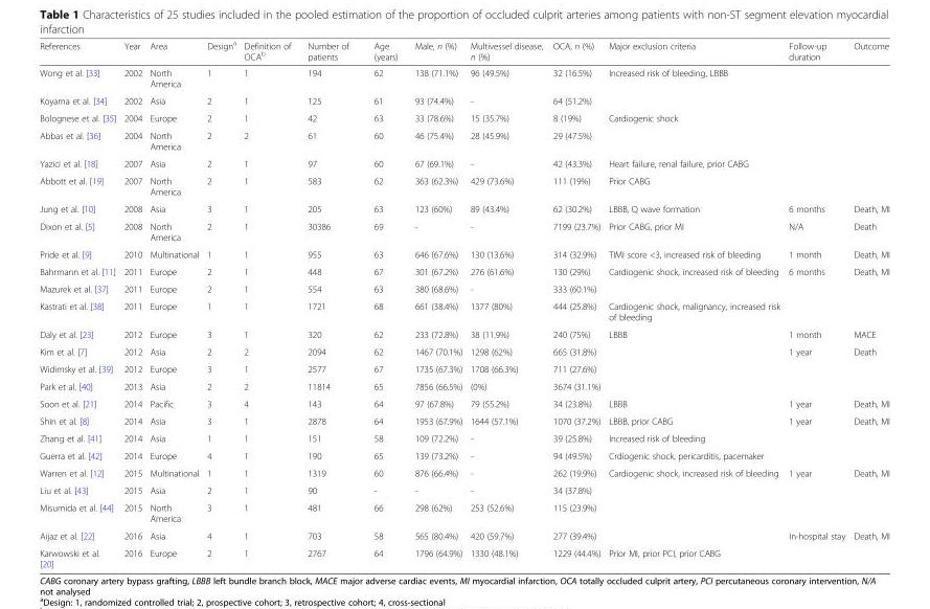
<table><thead><tr><td>References</td><td>Year</td><td>Area</td><td>Design<sup>a</sup></td><td>Definition of OCA<sup>b</sup></td><td>Number of patients</td><td>Age (years)</td><td>Male, n (%)</td><td>Multivessel disease, n (%)</td><td>OCA, n (%)</td><td>Major exclusion criteria</td><td>Follow-up duration</td><td>Outcome</td></tr></thead><tbody><tr><td>Wong et al. [33]</td><td>2002</td><td>North America</td><td>1</td><td>1</td><td>194</td><td>62</td><td>138 (71.1%)</td><td>96 (49.5%)</td><td>32 (16.5%)</td><td>Increased risk of bleeding, LBBB</td><td></td><td></td></tr><tr><td>Koyama et al. [34]</td><td>2002</td><td>Asia</td><td>2</td><td>1</td><td>125</td><td>61</td><td>93 (74.4%)</td><td>-</td><td>64 (51.2%)</td><td></td><td></td><td></td></tr><tr><td>Bolognese et al. [35]</td><td>2004</td><td>Europe</td><td>2</td><td>1</td><td>42</td><td>63</td><td>33 (78.6%)</td><td>15 (35.7%)</td><td>8 (19%)</td><td>Cardiogenic shock</td><td></td><td></td></tr><tr><td>Abbas et al. [36]</td><td>2004</td><td>North America</td><td>2</td><td>2</td><td>61</td><td>60</td><td>46 (75.4%)</td><td>28 (45.9%)</td><td>29 (47.5%)</td><td></td><td></td><td></td></tr><tr><td>Yazici et al. [18]</td><td>2007</td><td>Asia</td><td>2</td><td>1</td><td>97</td><td>60</td><td>67 (69.1%)</td><td>-</td><td>42 (43.3%)</td><td>Heart failure, renal failure, prior CABG</td><td></td><td></td></tr><tr><td>Abbott et al. [19]</td><td>2007</td><td>North America</td><td>2</td><td>1</td><td>583</td><td>62</td><td>363 (62.3%)</td><td>429 (73.6%)</td><td>111 (19%)</td><td>Prior CABG</td><td></td><td></td></tr><tr><td>Jung et al. [10]</td><td>2008</td><td>Asia</td><td>3</td><td>1</td><td>205</td><td>63</td><td>123 (60%)</td><td>89 (43.4%)</td><td>62 (30.2%)</td><td>LBBB, Q wave formation</td><td>6 months</td><td>Death, MI</td></tr><tr><td>Dixon et al. [5]</td><td>2008</td><td>North America</td><td>2</td><td>1</td><td>30386</td><td>69</td><td>-</td><td>-</td><td>7199 (23.7%)</td><td>Prior CABG, prior MI</td><td>N/A</td><td>Death</td></tr><tr><td>Pride et al. [9]</td><td>2010</td><td>Multinational</td><td>1</td><td>1</td><td>955</td><td>63</td><td>646 (67.6%)</td><td>130 (13.6%)</td><td>314 (32.9%)</td><td>TIMI score &lt;3, increased risk of bleeding</td><td>1 month</td><td>Death, MI</td></tr><tr><td>Bahrmann et al. [11]</td><td>2011</td><td>Europe</td><td>2</td><td>1</td><td>448</td><td>67</td><td>301 (67.2%)</td><td>276 (61.6%)</td><td>130 (29%)</td><td>Cardiogenic shock, increased risk of bleeding</td><td>6 months</td><td>Death, MI</td></tr><tr><td>Mazurek et al. [37]</td><td>2011</td><td>Europe</td><td>2</td><td>1</td><td>554</td><td>63</td><td>380 (68.6%)</td><td>-</td><td>333 (60.1%)</td><td></td><td></td><td></td></tr><tr><td>Kastrati et al. [38]</td><td>2011</td><td>Europe</td><td>1</td><td>1</td><td>1721</td><td>68</td><td>661 (38.4%)</td><td>1377 (80%)</td><td>444 (25.8%)</td><td>Cardiogenic shock, malignancy, increased risk of bleeding</td><td></td><td></td></tr><tr><td>Daly et al. [23]</td><td>2012</td><td>Europe</td><td>3</td><td>1</td><td>320</td><td>62</td><td>233 (72.8%)</td><td>38 (11.9%)</td><td>240 (75%)</td><td>LBBB</td><td>1 month</td><td>MACE</td></tr><tr><td>Kim et al. [7]</td><td>2012</td><td>Asia</td><td>2</td><td>2</td><td>2094</td><td>62</td><td>1467 (70.1%)</td><td>1298 (62%)</td><td>665 (31.8%)</td><td></td><td>1 year</td><td>Death</td></tr><tr><td>Widimsky et al. [39]</td><td>2012</td><td>Europe</td><td>3</td><td>1</td><td>2577</td><td>67</td><td>1735 (67.3%)</td><td>1708 (66.3%)</td><td>711 (27.6%)</td><td></td><td></td><td></td></tr><tr><td>Park et al. [40]</td><td>2013</td><td>Asia</td><td>2</td><td>2</td><td>11814</td><td>65</td><td>7856 (66.5%)</td><td>(0%)</td><td>3674 (31.1%)</td><td></td><td></td><td></td></tr><tr><td>Soon et al. [21]</td><td>2014</td><td>Pacific</td><td>3</td><td>4</td><td>143</td><td>64</td><td>97 (67.8%)</td><td>79 (55.2%)</td><td>34 (23.8%)</td><td>LBBB</td><td>1 year</td><td>Death, MI</td></tr><tr><td>Shin et al. [8]</td><td>2014</td><td>Asia</td><td>3</td><td>1</td><td>2878</td><td>64</td><td>1953 (67.9%)</td><td>1644 (57.1%)</td><td>1070 (37.2%)</td><td>LBBB, prior CABG</td><td>1 year</td><td>Death, MI</td></tr><tr><td>Zhang et al. [41]</td><td>2014</td><td>Asia</td><td>1</td><td>1</td><td>151</td><td>58</td><td>109 (72.2%)</td><td>-</td><td>39 (25.8%)</td><td>Increased risk of bleeding</td><td></td><td></td></tr><tr><td>Guerra et al. [42]</td><td>2014</td><td>Europe</td><td>4</td><td>1</td><td>190</td><td>65</td><td>139 (73.2%)</td><td>-</td><td>94 (49.5%)</td><td>Crdiogenic shock, pericarditis, pacemaker</td><td></td><td></td></tr><tr><td>Warren et al. [12]</td><td>2015</td><td>Multinational</td><td>1</td><td>1</td><td>1319</td><td>60</td><td>876 (66.4%)</td><td>-</td><td>262 (19.9%)</td><td>Cardiogenic shock, increased risk of bleeding</td><td>1 year</td><td>Death, MI</td></tr><tr><td>Liu et al. [43]</td><td>2015</td><td>Asia</td><td>2</td><td>1</td><td>90</td><td>-</td><td>-</td><td>-</td><td>34 (37.8%)</td><td></td><td></td><td></td></tr><tr><td>Misumida et al. [44]</td><td>2015</td><td>North America</td><td>3</td><td>1</td><td>481</td><td>66</td><td>298 (62%)</td><td>253 (52.6%)</td><td>115 (23.9%)</td><td></td><td></td><td></td></tr><tr><td>Aijaz et al. [22]</td><td>2016</td><td>Asia</td><td>4</td><td>1</td><td>703</td><td>58</td><td>565 (80.4%)</td><td>420 (59.7%)</td><td>277 (39.4%)</td><td></td><td>In-hospital stay</td><td>Death, MI</td></tr><tr><td>Karwowski et al. [20]</td><td>2016</td><td>Europe</td><td>2</td><td>1</td><td>2767</td><td>64</td><td>1796 (64.9%)</td><td>1330 (48.1%)</td><td>1229 (44.4%)</td><td>Prior MI, prior PCI, prior CABG</td><td></td><td></td></tr></tbody></table>